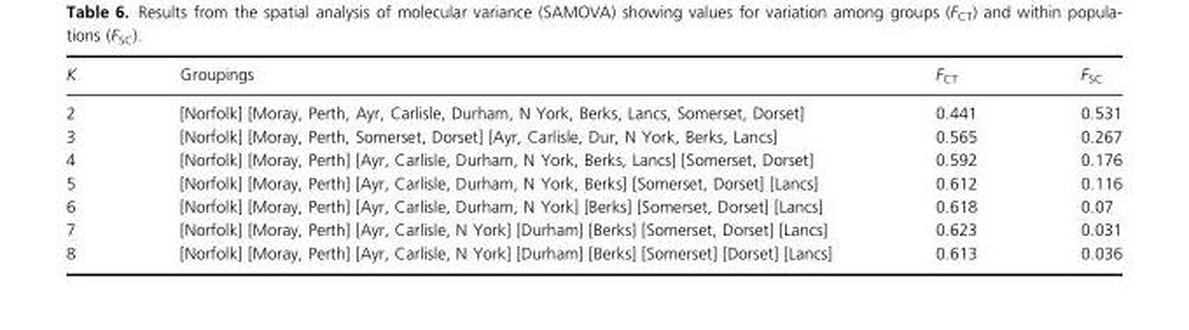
<table><thead><tr><td>K</td><td>Groupings</td><td>F<sub>CT</sub></td><td>F<sub>SC</sub></td></tr></thead><tbody><tr><td>2</td><td>[Norfolk] [Moray, Perth, Ayr, Carlisle, Durham, N York, Berks, Lancs, Somerset, Dorset]</td><td>0.441</td><td>0.531</td></tr><tr><td>3</td><td>[Norfolk] [Moray, Perth, Somerset, Dorset] [Ayr, Carlisle, Dur, N York, Berks, Lancs]</td><td>0.565</td><td>0.267</td></tr><tr><td>4</td><td>[Norfolk] [Moray, Perth] [Ayr, Carlisle, Durham, N York, Berks, Lancs] [Somerset, Dorset]</td><td>0.592</td><td>0.176</td></tr><tr><td>5</td><td>[Norfolk] [Moray, Perth] [Ayr, Carlisle, Durham, N York, Berks] [Somerset, Dorset] [Lancs]</td><td>0.612</td><td>0.116</td></tr><tr><td>6</td><td>[Norfolk] [Moray, Perth] [Ayr, Carlisle, Durham, N York] [Berks] [Somerset, Dorset] [Lancs]</td><td>0.618</td><td>0.07</td></tr><tr><td>7</td><td>[Norfolk] [Moray, Perth] [Ayr, Carlisle, N York] [Durham] [Berks] [Somerset, Dorset] [Lancs]</td><td>0.623</td><td>0.031</td></tr><tr><td>8</td><td>[Norfolk] [Moray, Perth] [Ayr, Carlisle, N York] [Durham] [Berks] [Somerset] [Dorset] [Lancs]</td><td>0.613</td><td>0.036</td></tr></tbody></table>